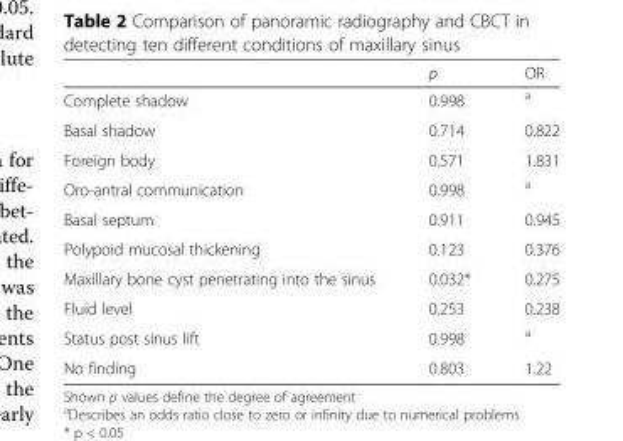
<table><thead><tr><td></td><td>p</td><td>OR</td></tr></thead><tbody><tr><td>Complete shadow</td><td>0.998</td><td><sup>a</sup></td></tr><tr><td>Basal shadow</td><td>0.714</td><td>0.822</td></tr><tr><td>Foreign body</td><td>0.571</td><td>1.831</td></tr><tr><td>Oro-antral communication</td><td>0.998</td><td><sup>a</sup></td></tr><tr><td>Basal septum</td><td>0.911</td><td>0.945</td></tr><tr><td>Polypoid mucosal thickening</td><td>0.123</td><td>0.376</td></tr><tr><td>Maxillary bone cyst penetrating into the sinus</td><td>0.032*</td><td>0.275</td></tr><tr><td>Fluid level</td><td>0.253</td><td>0.238</td></tr><tr><td>Status post sinus lift</td><td>0.998</td><td><sup>a</sup></td></tr><tr><td>No finding</td><td>0.803</td><td>1.22</td></tr></tbody></table>